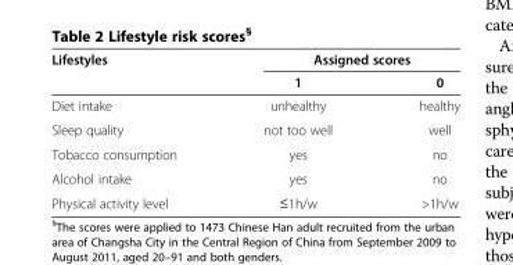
<table><thead><tr><td rowspan="2">Lifestyles</td><td colspan="2">Assigned scores</td></tr><tr><td>1</td><td>0</td></tr></thead><tbody><tr><td>Diet intake</td><td>unhealthy</td><td>healthy</td></tr><tr><td>Sleep quality</td><td>not too well</td><td>well</td></tr><tr><td>Tobacco consumption</td><td>yes</td><td>no</td></tr><tr><td>Alcohol intake</td><td>yes</td><td>no</td></tr><tr><td>Physical activity level</td><td>≤1h/w</td><td>&gt;1h/w</td></tr></tbody></table>